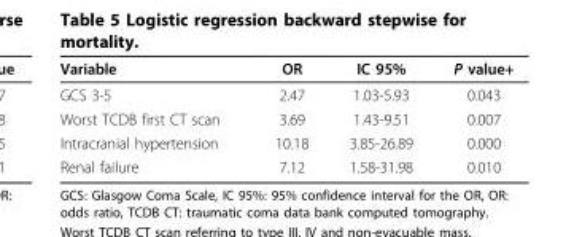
<table><thead><tr><td>Variable</td><td>OR</td><td>IC 95%</td><td>P value+</td></tr></thead><tbody><tr><td>GCS 3-5</td><td>2.47</td><td>1.03-5.93</td><td>0.043</td></tr><tr><td>Worst TCDB first CT scan</td><td>3.69</td><td>1.43-9.51</td><td>0.007</td></tr><tr><td>Intracranial hypertension</td><td>10.18</td><td>3.85-26.89</td><td>0.000</td></tr><tr><td>Renal failure</td><td>7.12</td><td>1.58-31.98</td><td>0.010</td></tr></tbody></table>